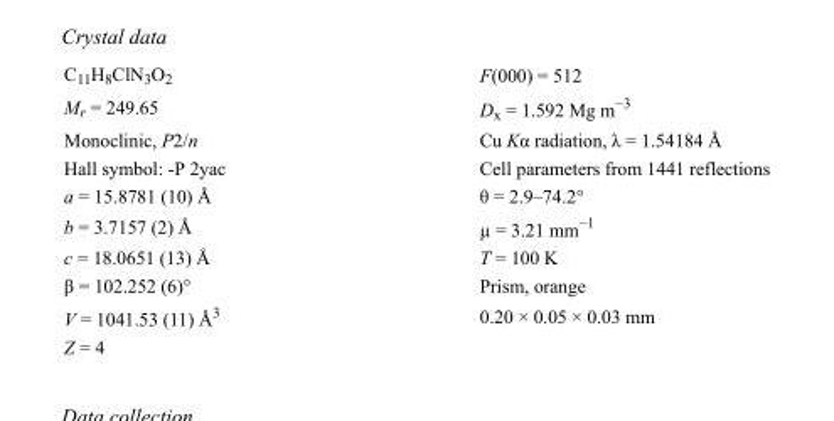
<table><tbody><tr><td>C<sub>11</sub>H<sub>8</sub>ClN<sub>3</sub>O<sub>2</sub></td><td>F(000) = 512</td></tr><tr><td>M<sub>r</sub> = 249.65</td><td>D<sub>x</sub> = 1.592 Mg m<sup>−3</sup></td></tr><tr><td>Monoclinic, P2/n</td><td>Cu Kα radiation, λ = 1.54184 Å</td></tr><tr><td>Hall symbol: -P 2yac</td><td>Cell parameters from 1441 reflections</td></tr><tr><td>a = 15.8781 (10) Å</td><td>θ = 2.9–74.2°</td></tr><tr><td>b = 3.7157 (2) Å</td><td>µ = 3.21 mm<sup>−1</sup></td></tr><tr><td>c = 18.0651 (13) Å</td><td>T = 100 K</td></tr><tr><td>β = 102.252 (6)°</td><td>Prism, orange</td></tr><tr><td>V = 1041.53 (11) Å<sup>3</sup></td><td>0.20 × 0.05 × 0.03 mm</td></tr><tr><td>Z = 4</td><td></td></tr></tbody></table>